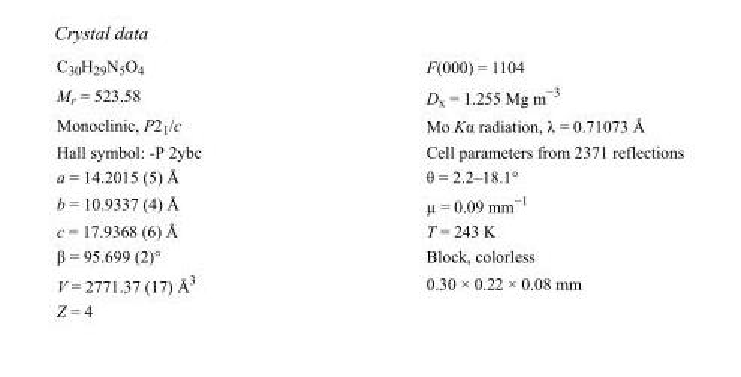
<table><tbody><tr><td>C<sub>30</sub>H<sub>29</sub>N<sub>5</sub>O<sub>4</sub></td><td>F(000) = 1104</td></tr><tr><td>M<sub>r</sub> = 523.58</td><td>D<sub>x</sub> = 1.255 Mg m<sup>−3</sup></td></tr><tr><td>Monoclinic, P2<sub>1</sub>/c</td><td>Mo Kα radiation, λ = 0.71073 Å</td></tr><tr><td>Hall symbol: -P 2ybc</td><td>Cell parameters from 2371 reflections</td></tr><tr><td>a = 14.2015 (5) Å</td><td>θ = 2.2–18.1°</td></tr><tr><td>b = 10.9337 (4) Å</td><td>µ = 0.09 mm<sup>−1</sup></td></tr><tr><td>c = 17.9368 (6) Å</td><td>T = 243 K</td></tr><tr><td>β = 95.699 (2)°</td><td>Block, colorless</td></tr><tr><td>V = 2771.37 (17) Å<sup>3</sup></td><td>0.30 × 0.22 × 0.08 mm</td></tr><tr><td>Z = 4</td><td></td></tr></tbody></table>